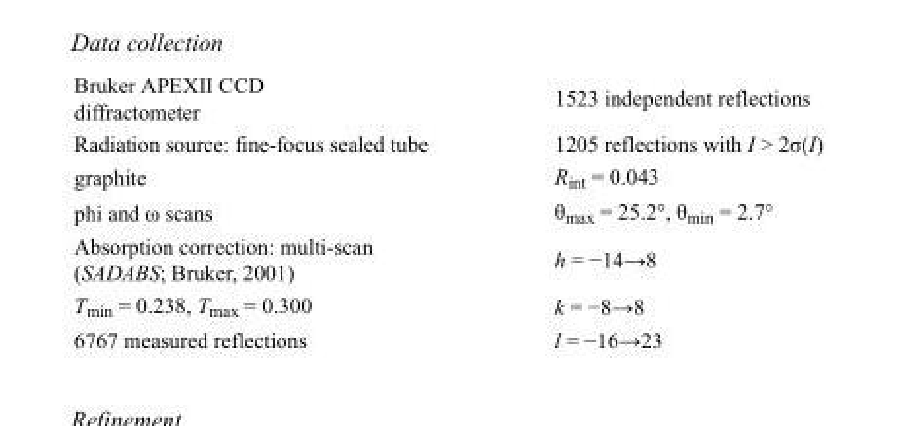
<table><tbody><tr><td>Bruker APEXII CCD diffractometer</td><td>1523 independent reflections</td></tr><tr><td>Radiation source: fine-focus sealed tube</td><td>1205 reflections with I &gt; 2σ(I)</td></tr><tr><td>graphite</td><td>R<sub>int</sub> = 0.043</td></tr><tr><td>phi and ω scans</td><td>θ<sub>max</sub> = 25.2°, θ<sub>min</sub> = 2.7°</td></tr><tr><td>Absorption correction: multi-scan (SADABS; Bruker, 2001)</td><td>h = −14→8</td></tr><tr><td>T<sub>min</sub> = 0.238, T<sub>max</sub> = 0.300</td><td>k = −8→8</td></tr><tr><td>6767 measured reflections</td><td>l = −16→23</td></tr></tbody></table>